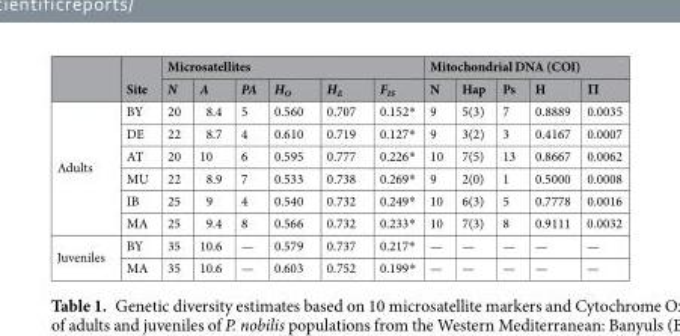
<table><thead><tr><td rowspan="2"></td><td rowspan="2">Site</td><td colspan="6">Microsatellites</td><td colspan="5">Mitochondrial DNA (COI)</td></tr><tr><td>N</td><td>A</td><td>PA</td><td>H<sub>O</sub></td><td>H<sub>E</sub></td><td>F<sub>IS</sub></td><td>N</td><td>Hap</td><td>Ps</td><td>H</td><td>Π</td></tr></thead><tbody><tr><td rowspan="6">Adults</td><td>BY</td><td>20</td><td>8.4</td><td>5</td><td>0.560</td><td>0.707</td><td>0.152*</td><td>9</td><td>5(3)</td><td>7</td><td>0.8889</td><td>0.0035</td></tr><tr><td>DE</td><td>22</td><td>8.7</td><td>4</td><td>0.610</td><td>0.719</td><td>0.127*</td><td>9</td><td>3(2)</td><td>3</td><td>0.4167</td><td>0.0007</td></tr><tr><td>AT</td><td>20</td><td>10</td><td>6</td><td>0.595</td><td>0.777</td><td>0.226*</td><td>10</td><td>7(5)</td><td>13</td><td>0.8667</td><td>0.0062</td></tr><tr><td>MU</td><td>22</td><td>8.9</td><td>7</td><td>0.533</td><td>0.738</td><td>0.269*</td><td>9</td><td>2(0)</td><td>1</td><td>0.5000</td><td>0.0008</td></tr><tr><td>IB</td><td>25</td><td>9</td><td>4</td><td>0.540</td><td>0.732</td><td>0.249*</td><td>10</td><td>6(3)</td><td>5</td><td>0.7778</td><td>0.0016</td></tr><tr><td>MA</td><td>25</td><td>9.4</td><td>8</td><td>0.566</td><td>0.732</td><td>0.233*</td><td>10</td><td>7(3)</td><td>8</td><td>0.9111</td><td>0.0032</td></tr><tr><td rowspan="2">Juveniles</td><td>BY</td><td>35</td><td>10.6</td><td>—</td><td>0.579</td><td>0.737</td><td>0.217*</td><td>—</td><td>—</td><td>—</td><td>—</td><td>—</td></tr><tr><td>MA</td><td>35</td><td>10.6</td><td>—</td><td>0.603</td><td>0.752</td><td>0.199*</td><td>—</td><td>—</td><td>—</td><td>—</td><td>—</td></tr></tbody></table>